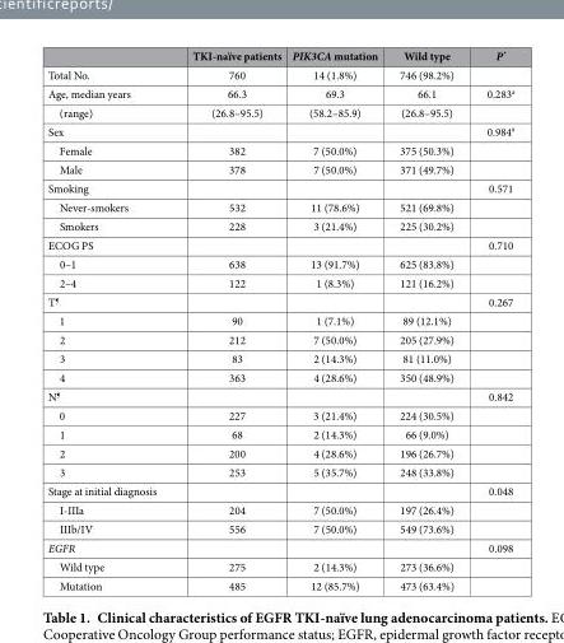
<table><thead><tr><td></td><td>TKI-naïve patients</td><td>PIK3CA mutation</td><td>Wild type</td><td>P*</td></tr></thead><tbody><tr><td>Total No.</td><td>760</td><td>14 (1.8%)</td><td>746 (98.2%)</td><td></td></tr><tr><td>Age, median years</td><td>66.3</td><td>69.3</td><td>66.1</td><td>0.283<sup>a</sup></td></tr><tr><td>(range)</td><td>(26.8–95.5)</td><td>(58.2–85.9)</td><td>(26.8–95.5)</td><td></td></tr><tr><td>Sex</td><td></td><td></td><td></td><td>0.984#</td></tr><tr><td>Female</td><td>382</td><td>7 (50.0%)</td><td>375 (50.3%)</td><td></td></tr><tr><td>Male</td><td>378</td><td>7 (50.0%)</td><td>371 (49.7%)</td><td></td></tr><tr><td>Smoking</td><td></td><td></td><td></td><td>0.571</td></tr><tr><td>Never-smokers</td><td>532</td><td>11 (78.6%)</td><td>521 (69.8%)</td><td></td></tr><tr><td>Smokers</td><td>228</td><td>3 (21.4%)</td><td>225 (30.2%)</td><td></td></tr><tr><td>ECOG PS</td><td></td><td></td><td></td><td>0.710</td></tr><tr><td>0–1</td><td>638</td><td>13 (91.7%)</td><td>625 (83.8%)</td><td></td></tr><tr><td>2–4</td><td>122</td><td>1 (8.3%)</td><td>121 (16.2%)</td><td></td></tr><tr><td>T¶</td><td></td><td></td><td></td><td>0.267</td></tr><tr><td>1</td><td>90</td><td>1 (7.1%)</td><td>89 (12.1%)</td><td></td></tr><tr><td>2</td><td>212</td><td>7 (50.0%)</td><td>205 (27.9%)</td><td></td></tr><tr><td>3</td><td>83</td><td>2 (14.3%)</td><td>81 (11.0%)</td><td></td></tr><tr><td>4</td><td>363</td><td>4 (28.6%)</td><td>350 (48.9%)</td><td></td></tr><tr><td>N¶</td><td></td><td></td><td></td><td>0.842</td></tr><tr><td>0</td><td>227</td><td>3 (21.4%)</td><td>224 (30.5%)</td><td></td></tr><tr><td>1</td><td>68</td><td>2 (14.3%)</td><td>66 (9.0%)</td><td></td></tr><tr><td>2</td><td>200</td><td>4 (28.6%)</td><td>196 (26.7%)</td><td></td></tr><tr><td>3</td><td>253</td><td>5 (35.7%)</td><td>248 (33.8%)</td><td></td></tr><tr><td>Stage at initial diagnosis</td><td></td><td></td><td></td><td>0.048</td></tr><tr><td>I-IIIa</td><td>204</td><td>7 (50.0%)</td><td>197 (26.4%)</td><td></td></tr><tr><td>IIIb/IV</td><td>556</td><td>7 (50.0%)</td><td>549 (73.6%)</td><td></td></tr><tr><td>EGFR</td><td></td><td></td><td></td><td>0.098</td></tr><tr><td>Wild type</td><td>275</td><td>2 (14.3%)</td><td>273 (36.6%)</td><td></td></tr><tr><td>Mutation</td><td>485</td><td>12 (85.7%)</td><td>473 (63.4%)</td><td></td></tr></tbody></table>